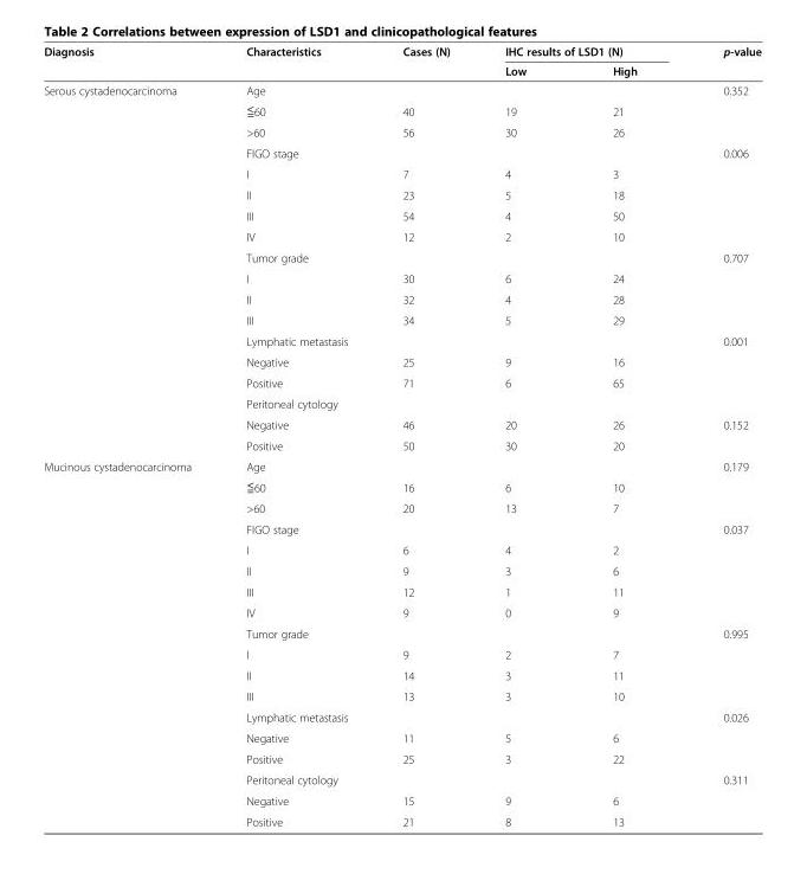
<table><thead><tr><td rowspan="2">Diagnosis</td><td rowspan="2">Characteristics</td><td rowspan="2">Cases (N)</td><td colspan="2">IHC results of LSD1 (N)</td><td rowspan="2">p-value</td></tr><tr><td>Low</td><td>High</td></tr></thead><tbody><tr><td rowspan="18">Serous cystadenocarcinoma</td><td>Age</td><td></td><td></td><td></td><td>0.352</td></tr><tr><td>≦60</td><td>40</td><td>19</td><td>21</td><td></td></tr><tr><td>&gt;60</td><td>56</td><td>30</td><td>26</td><td></td></tr><tr><td>FIGO stage</td><td></td><td></td><td></td><td>0.006</td></tr><tr><td>I</td><td>7</td><td>4</td><td>3</td><td></td></tr><tr><td>II</td><td>23</td><td>5</td><td>18</td><td></td></tr><tr><td>III</td><td>54</td><td>4</td><td>50</td><td></td></tr><tr><td>IV</td><td>12</td><td>2</td><td>10</td><td></td></tr><tr><td>Tumor grade</td><td></td><td></td><td></td><td>0.707</td></tr><tr><td>I</td><td>30</td><td>6</td><td>24</td><td></td></tr><tr><td>II</td><td>32</td><td>4</td><td>28</td><td></td></tr><tr><td>III</td><td>34</td><td>5</td><td>29</td><td></td></tr><tr><td>Lymphatic metastasis</td><td></td><td></td><td></td><td>0.001</td></tr><tr><td>Negative</td><td>25</td><td>9</td><td>16</td><td></td></tr><tr><td>Positive</td><td>71</td><td>6</td><td>65</td><td></td></tr><tr><td>Peritoneal cytology</td><td></td><td></td><td></td><td></td></tr><tr><td>Negative</td><td>46</td><td>20</td><td>26</td><td>0.152</td></tr><tr><td>Positive</td><td>50</td><td>30</td><td>20</td><td></td></tr><tr><td rowspan="18">Mucinous cystadenocarcinoma</td><td>Age</td><td></td><td></td><td></td><td>0.179</td></tr><tr><td>≦60</td><td>16</td><td>6</td><td>10</td><td></td></tr><tr><td>&gt;60</td><td>20</td><td>13</td><td>7</td><td></td></tr><tr><td>FIGO stage</td><td></td><td></td><td></td><td>0.037</td></tr><tr><td>I</td><td>6</td><td>4</td><td>2</td><td></td></tr><tr><td>II</td><td>9</td><td>3</td><td>6</td><td></td></tr><tr><td>III</td><td>12</td><td>1</td><td>11</td><td></td></tr><tr><td>IV</td><td>9</td><td>0</td><td>9</td><td></td></tr><tr><td>Tumor grade</td><td></td><td></td><td></td><td>0.995</td></tr><tr><td>I</td><td>9</td><td>2</td><td>7</td><td></td></tr><tr><td>II</td><td>14</td><td>3</td><td>11</td><td></td></tr><tr><td>III</td><td>13</td><td>3</td><td>10</td><td></td></tr><tr><td>Lymphatic metastasis</td><td></td><td></td><td></td><td>0.026</td></tr><tr><td>Negative</td><td>11</td><td>5</td><td>6</td><td></td></tr><tr><td>Positive</td><td>25</td><td>3</td><td>22</td><td></td></tr><tr><td>Peritoneal cytology</td><td></td><td></td><td></td><td>0.311</td></tr><tr><td>Negative</td><td>15</td><td>9</td><td>6</td><td></td></tr><tr><td>Positive</td><td>21</td><td>8</td><td>13</td><td></td></tr></tbody></table>